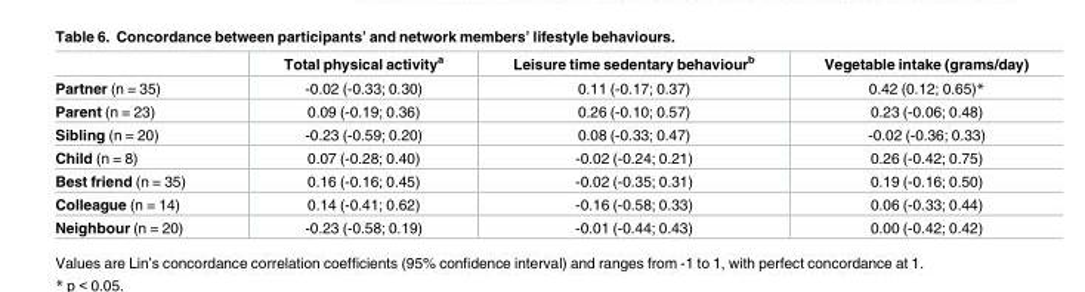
<table><thead><tr><td></td><td>Total physical activity<sup>a</sup></td><td>Leisure time sedentary behaviour<sup>b</sup></td><td>Vegetable intake (grams/day)</td></tr></thead><tbody><tr><td>Partner (n = 35)</td><td>-0.02 (-0.33; 0.30)</td><td>0.11 (-0.17; 0.37)</td><td>0.42 (0.12; 0.65)*</td></tr><tr><td>Parent (n = 23)</td><td>0.09 (-0.19; 0.36)</td><td>0.26 (-0.10; 0.57)</td><td>0.23 (-0.06; 0.48)</td></tr><tr><td>Sibling (n = 20)</td><td>-0.23 (-0.59; 0.20)</td><td>0.08 (-0.33; 0.47)</td><td>-0.02 (-0.36; 0.33)</td></tr><tr><td>Child (n = 8)</td><td>0.07 (-0.28; 0.40)</td><td>-0.02 (-0.24; 0.21)</td><td>0.26 (-0.42; 0.75)</td></tr><tr><td>Best friend (n = 35)</td><td>0.16 (-0.16; 0.45)</td><td>-0.02 (-0.35; 0.31)</td><td>0.19 (-0.16; 0.50)</td></tr><tr><td>Colleague (n = 14)</td><td>0.14 (-0.41; 0.62)</td><td>-0.16 (-0.58; 0.33)</td><td>0.06 (-0.33; 0.44)</td></tr><tr><td>Neighbour (n = 20)</td><td>-0.23 (-0.58; 0.19)</td><td>-0.01 (-0.44; 0.43)</td><td>0.00 (-0.42; 0.42)</td></tr></tbody></table>